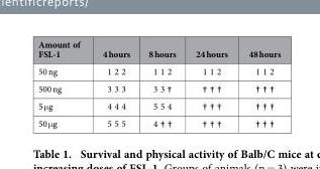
<table><thead><tr><td>Amount of FSL-1</td><td>4 hours</td><td>8 hours</td><td>24 hours</td><td>48 hours</td></tr></thead><tbody><tr><td>50 ng</td><td>1 2 2</td><td>1 1 2</td><td>1 1 2</td><td>1 1 2</td></tr><tr><td>500 ng</td><td>3 3 3</td><td>3 3 †</td><td>† † †</td><td>† † †</td></tr><tr><td>5 μg</td><td>4 4 4</td><td>5 5 4</td><td>† † †</td><td>† † †</td></tr><tr><td>50 μg</td><td>5 5 5</td><td>4 † †</td><td>† † †</td><td>† † †</td></tr></tbody></table>